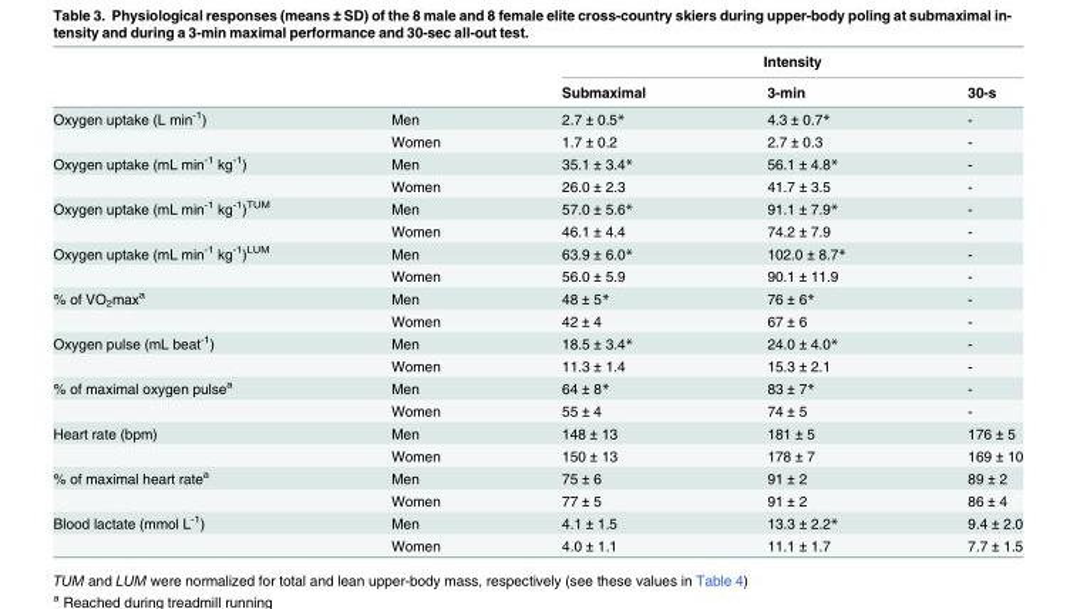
<table><thead><tr><td rowspan="2"></td><td rowspan="2"></td><td colspan="3">Intensity</td></tr><tr><td>Submaximal</td><td>3-min</td><td>30-s</td></tr></thead><tbody><tr><td rowspan="2">Oxygen uptake (L min<sup>-1</sup>)</td><td>Men</td><td>2.7 ± 0.5*</td><td>4.3 ± 0.7*</td><td>-</td></tr><tr><td>Women</td><td>1.7 ± 0.2</td><td>2.7 ± 0.3</td><td>-</td></tr><tr><td rowspan="2">Oxygen uptake (mL min<sup>-1</sup> kg<sup>-1</sup>)</td><td>Men</td><td>35.1 ± 3.4*</td><td>56.1 ± 4.8*</td><td>-</td></tr><tr><td>Women</td><td>26.0 ± 2.3</td><td>41.7 ± 3.5</td><td>-</td></tr><tr><td rowspan="2">Oxygen uptake (mL min<sup>-1</sup> kg<sup>-1</sup>)<sup>TUM</sup></td><td>Men</td><td>57.0 ± 5.6*</td><td>91.1 ± 7.9*</td><td>-</td></tr><tr><td>Women</td><td>46.1 ± 4.4</td><td>74.2 ± 7.9</td><td>-</td></tr><tr><td rowspan="2">Oxygen uptake (mL min<sup>-1</sup> kg<sup>-1</sup>)<sup>LUM</sup></td><td>Men</td><td>63.9 ± 6.0*</td><td>102.0 ± 8.7*</td><td>-</td></tr><tr><td>Women</td><td>56.0 ± 5.9</td><td>90.1 ± 11.9</td><td>-</td></tr><tr><td rowspan="2">% of VO<sub>2</sub>max<sup>a</sup></td><td>Men</td><td>48 ± 5*</td><td>76 ± 6*</td><td>-</td></tr><tr><td>Women</td><td>42 ± 4</td><td>67 ± 6</td><td>-</td></tr><tr><td rowspan="2">Oxygen pulse (mL beat<sup>-1</sup>)</td><td>Men</td><td>18.5 ± 3.4*</td><td>24.0 ± 4.0*</td><td>-</td></tr><tr><td>Women</td><td>11.3 ± 1.4</td><td>15.3 ± 2.1</td><td>-</td></tr><tr><td rowspan="2">% of maximal oxygen pulse<sup>a</sup></td><td>Men</td><td>64 ± 8*</td><td>83 ± 7*</td><td>-</td></tr><tr><td>Women</td><td>55 ± 4</td><td>74 ± 5</td><td>-</td></tr><tr><td rowspan="2">Heart rate (bpm)</td><td>Men</td><td>148 ± 13</td><td>181 ± 5</td><td>176 ± 5</td></tr><tr><td>Women</td><td>150 ± 13</td><td>178 ± 7</td><td>169 ± 10</td></tr><tr><td rowspan="2">% of maximal heart rate<sup>a</sup></td><td>Men</td><td>75 ± 6</td><td>91 ± 2</td><td>89 ± 2</td></tr><tr><td>Women</td><td>77 ± 5</td><td>91 ± 2</td><td>86 ± 4</td></tr><tr><td rowspan="2">Blood lactate (mmol L<sup>-1</sup>)</td><td>Men</td><td>4.1 ± 1.5</td><td>13.3 ± 2.2*</td><td>9.4 ± 2.0</td></tr><tr><td>Women</td><td>4.0 ± 1.1</td><td>11.1 ± 1.7</td><td>7.7 ± 1.5</td></tr></tbody></table>